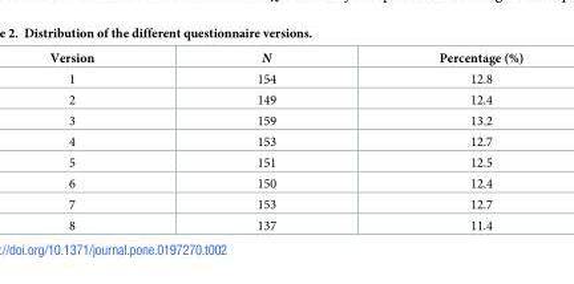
<table><thead><tr><td>Version</td><td>N</td><td>Percentage (%)</td></tr></thead><tbody><tr><td>1</td><td>154</td><td>12.8</td></tr><tr><td>2</td><td>149</td><td>12.4</td></tr><tr><td>3</td><td>159</td><td>13.2</td></tr><tr><td>4</td><td>153</td><td>12.7</td></tr><tr><td>5</td><td>151</td><td>12.5</td></tr><tr><td>6</td><td>150</td><td>12.4</td></tr><tr><td>7</td><td>153</td><td>12.7</td></tr><tr><td>8</td><td>137</td><td>11.4</td></tr></tbody></table>